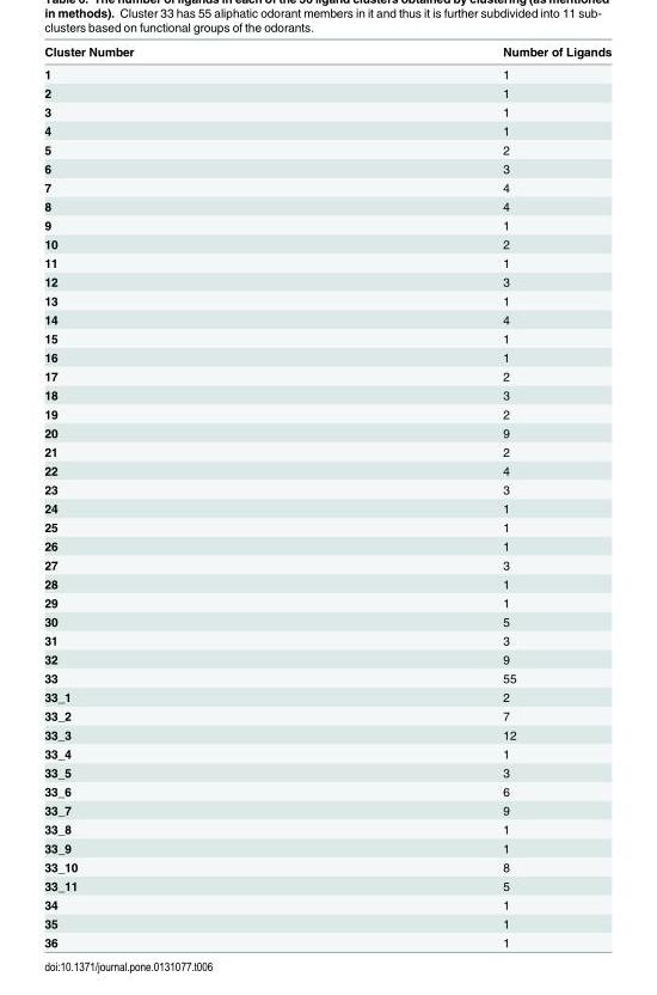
<table><thead><tr><td>Cluster Number</td><td>Number of Ligands</td></tr></thead><tbody><tr><td>1</td><td>1</td></tr><tr><td>2</td><td>1</td></tr><tr><td>3</td><td>1</td></tr><tr><td>4</td><td>1</td></tr><tr><td>5</td><td>2</td></tr><tr><td>6</td><td>3</td></tr><tr><td>7</td><td>4</td></tr><tr><td>8</td><td>4</td></tr><tr><td>9</td><td>1</td></tr><tr><td>10</td><td>2</td></tr><tr><td>11</td><td>1</td></tr><tr><td>12</td><td>3</td></tr><tr><td>13</td><td>1</td></tr><tr><td>14</td><td>4</td></tr><tr><td>15</td><td>1</td></tr><tr><td>16</td><td>1</td></tr><tr><td>17</td><td>2</td></tr><tr><td>18</td><td>3</td></tr><tr><td>19</td><td>2</td></tr><tr><td>20</td><td>9</td></tr><tr><td>21</td><td>2</td></tr><tr><td>22</td><td>4</td></tr><tr><td>23</td><td>3</td></tr><tr><td>24</td><td>1</td></tr><tr><td>25</td><td>1</td></tr><tr><td>26</td><td>1</td></tr><tr><td>27</td><td>3</td></tr><tr><td>28</td><td>1</td></tr><tr><td>29</td><td>1</td></tr><tr><td>30</td><td>5</td></tr><tr><td>31</td><td>3</td></tr><tr><td>32</td><td>9</td></tr><tr><td>33</td><td>55</td></tr><tr><td>33_1</td><td>2</td></tr><tr><td>33_2</td><td>7</td></tr><tr><td>33_3</td><td>12</td></tr><tr><td>33_4</td><td>1</td></tr><tr><td>33_5</td><td>3</td></tr><tr><td>33_6</td><td>6</td></tr><tr><td>33_7</td><td>9</td></tr><tr><td>33_8</td><td>1</td></tr><tr><td>33_9</td><td>1</td></tr><tr><td>33_10</td><td>8</td></tr><tr><td>33_11</td><td>5</td></tr><tr><td>34</td><td>1</td></tr><tr><td>35</td><td>1</td></tr><tr><td>36</td><td>1</td></tr></tbody></table>